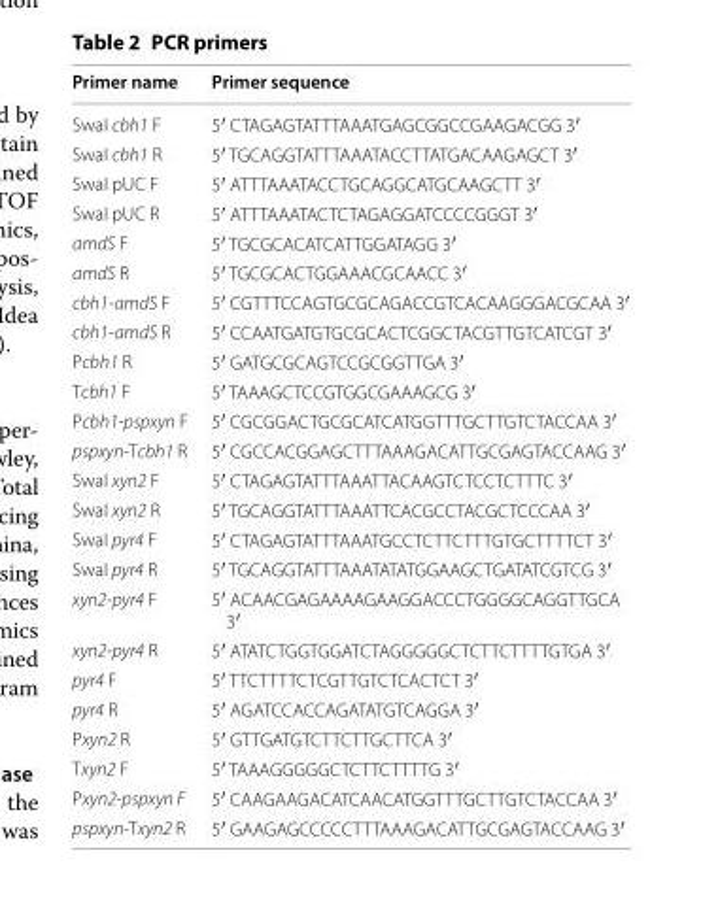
<table><thead><tr><td>Primer name</td><td>Primer sequence</td></tr></thead><tbody><tr><td>SwaI cbh1 F</td><td>5′ CTAGAGTATTTAAATGAGCGGCCGAAGACGG 3′</td></tr><tr><td>SwaI cbh1 R</td><td>5′ TGCAGGTATTTAAATACCTTATGACAAGAGCT 3′</td></tr><tr><td>SwaI pUC F</td><td>5′ ATTTAAATACCTGCAGGCATGCAAGCTT 3′</td></tr><tr><td>SwaI pUC R</td><td>5′ ATTTAAATACTCTAGAGGATCCCCGGGT 3′</td></tr><tr><td>amdS F</td><td>5′ TGCGCACATCATTGGATAGG 3′</td></tr><tr><td>amdS R</td><td>5′ TGCGCACTGGAAACGCAACC 3′</td></tr><tr><td>cbh1-amdS F</td><td>5′ CGTTTCCAGTGCGCAGACCGTCACAAGGGACGCAA 3′</td></tr><tr><td>cbh1-amdS R</td><td>5′ CCAATGATGTGCGCACTCGGCTACGTTGTCATCGT 3′</td></tr><tr><td>Pcbh1 R</td><td>5′ GATGCGCAGTCCGCGGTTGA 3′</td></tr><tr><td>Tcbh1 F</td><td>5′ TAAAGCTCCGTGGCGAAAGCG 3′</td></tr><tr><td>Pcbh1-pspxyn F</td><td>5′ CGCGGACTGCGCATCATGGTTTGCTTGTCTACCAA 3′</td></tr><tr><td>pspxyn-Tcbh1 R</td><td>5′ CGCCACGGAGCTTTAAAGACATTGCGAGTACCAAG 3′</td></tr><tr><td>SwaI xyn2 F</td><td>5′ CTAGAGTATTTAAATTACAAGTCTCCTCTTTC 3′</td></tr><tr><td>SwaI xyn2 R</td><td>5′ TGCAGGTATTTAAATTCACGCCTACGCTCCCAA 3′</td></tr><tr><td>SwaI pyr4 F</td><td>5′ CTAGAGTATTTAAATGCCTCTTCTTTGTGCTTTTCT 3′</td></tr><tr><td>SwaI pyr4 R</td><td>5′ TGCAGGTATTTAAATATATGGAAGCTGATATCGTCG 3′</td></tr><tr><td>xyn2-pyr4 F</td><td>5′ ACAACGAGAAAAGAAGGACCCTGGGGCAGGTTGCA 3′</td></tr><tr><td>xyn2-pyr4 R</td><td>5′ ATATCTGGTGGATCTAGGGGGCTCTTCTTTTGTGA 3′</td></tr><tr><td>pyr4 F</td><td>5′ TTCTTTTCTCGTTGTCTCACTCT 3′</td></tr><tr><td>pyr4 R</td><td>5′ AGATCCACCAGATATGTCAGGA 3′</td></tr><tr><td>Pxyn2 R</td><td>5′ GTTGATGTCTTCTTGCTTCA 3′</td></tr><tr><td>Txyn2 F</td><td>5′ TAAAGGGGGCTCTTCTTTTG 3′</td></tr><tr><td>Pxyn2-pspxyn F</td><td>5′ CAAGAAGACATCAACATGGTTTGCTTGTCTACCAA 3′</td></tr><tr><td>pspxyn-Txyn2 R</td><td>5′ GAAGAGCCCCCTTTAAAGACATTGCGAGTACCAAG 3′</td></tr></tbody></table>